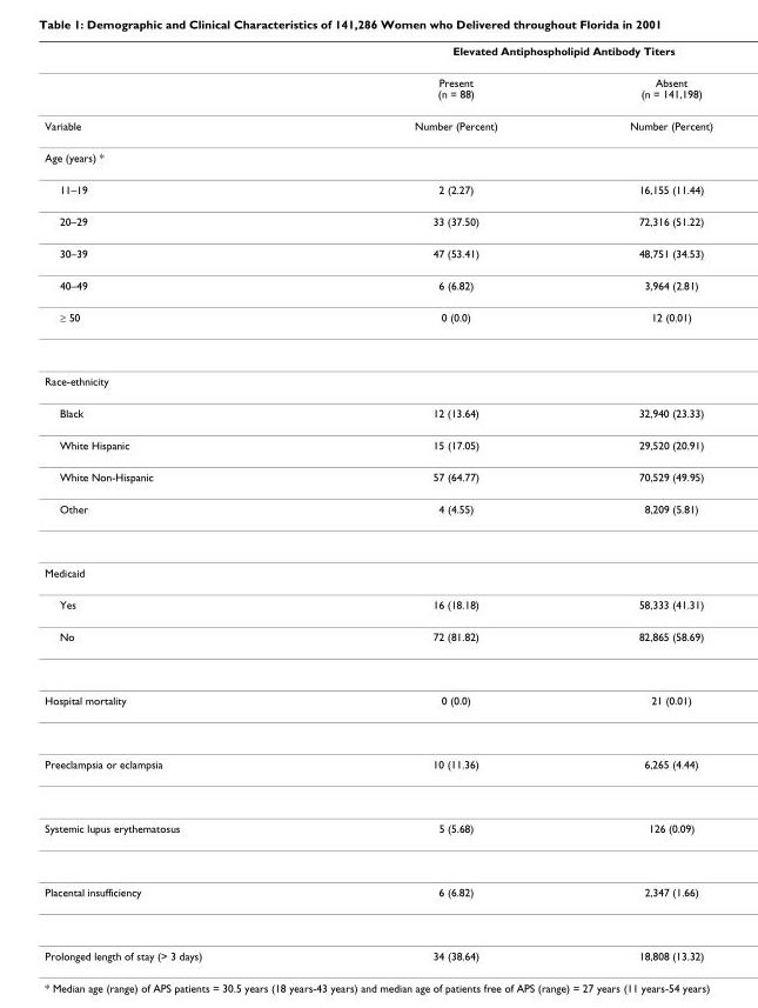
<table><thead><tr><td rowspan="2"></td><td colspan="2">Elevated Antiphospholipid Antibody Titers</td></tr><tr><td>Present (n = 88)</td><td>Absent (n = 141,198)</td></tr></thead><tbody><tr><td>Variable</td><td>Number (Percent)</td><td>Number (Percent)</td></tr><tr><td colspan="3">Age (years) *</td></tr><tr><td>11–19</td><td>2 (2.27)</td><td>16,155 (11.44)</td></tr><tr><td>20–29</td><td>33 (37.50)</td><td>72,316 (51.22)</td></tr><tr><td>30–39</td><td>47 (53.41)</td><td>48,751 (34.53)</td></tr><tr><td>40–49</td><td>6 (6.82)</td><td>3,964 (2.81)</td></tr><tr><td>≥ 50</td><td>0 (0.0)</td><td>12 (0.01)</td></tr><tr><td colspan="3">Race-ethnicity</td></tr><tr><td>Black</td><td>12 (13.64)</td><td>32,940 (23.33)</td></tr><tr><td>White Hispanic</td><td>15 (17.05)</td><td>29,520 (20.91)</td></tr><tr><td>White Non-Hispanic</td><td>57 (64.77)</td><td>70,529 (49.95)</td></tr><tr><td>Other</td><td>4 (4.55)</td><td>8,209 (5.81)</td></tr><tr><td colspan="3">Medicaid</td></tr><tr><td>Yes</td><td>16 (18.18)</td><td>58,333 (41.31)</td></tr><tr><td>No</td><td>72 (81.82)</td><td>82,865 (58.69)</td></tr><tr><td>Hospital mortality</td><td>0 (0.0)</td><td>21 (0.01)</td></tr><tr><td>Preeclampsia or eclampsia</td><td>10 (11.36)</td><td>6,265 (4.44)</td></tr><tr><td>Systemic lupus erythematosus</td><td>5 (5.68)</td><td>126 (0.09)</td></tr><tr><td>Placental insufficiency</td><td>6 (6.82)</td><td>2,347 (1.66)</td></tr><tr><td>Prolonged length of stay (&gt; 3 days)</td><td>34 (38.64)</td><td>18,808 (13.32)</td></tr></tbody></table>